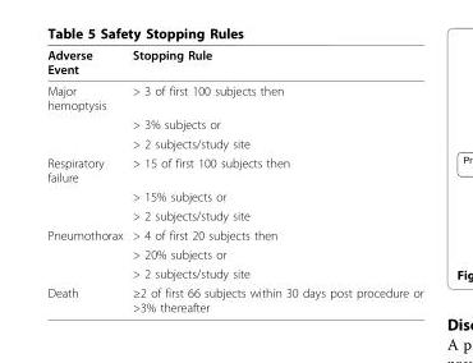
<table><thead><tr><td>Adverse Event</td><td>Stopping Rule</td></tr></thead><tbody><tr><td rowspan="3">Major hemoptysis</td><td>&gt; 3 of first 100 subjects then</td></tr><tr><td>&gt; 3% subjects or</td></tr><tr><td>&gt; 2 subjects/study site</td></tr><tr><td rowspan="3">Respiratory failure</td><td>&gt; 15 of first 100 subjects then</td></tr><tr><td>&gt; 15% subjects or</td></tr><tr><td>&gt; 2 subjects/study site</td></tr><tr><td rowspan="3">Pneumothorax</td><td>&gt; 4 of first 20 subjects then</td></tr><tr><td>&gt; 20% subjects or</td></tr><tr><td>&gt; 2 subjects/study site</td></tr><tr><td>Death</td><td>≥2 of first 66 subjects within 30 days post procedure or &gt;3% thereafter</td></tr></tbody></table>